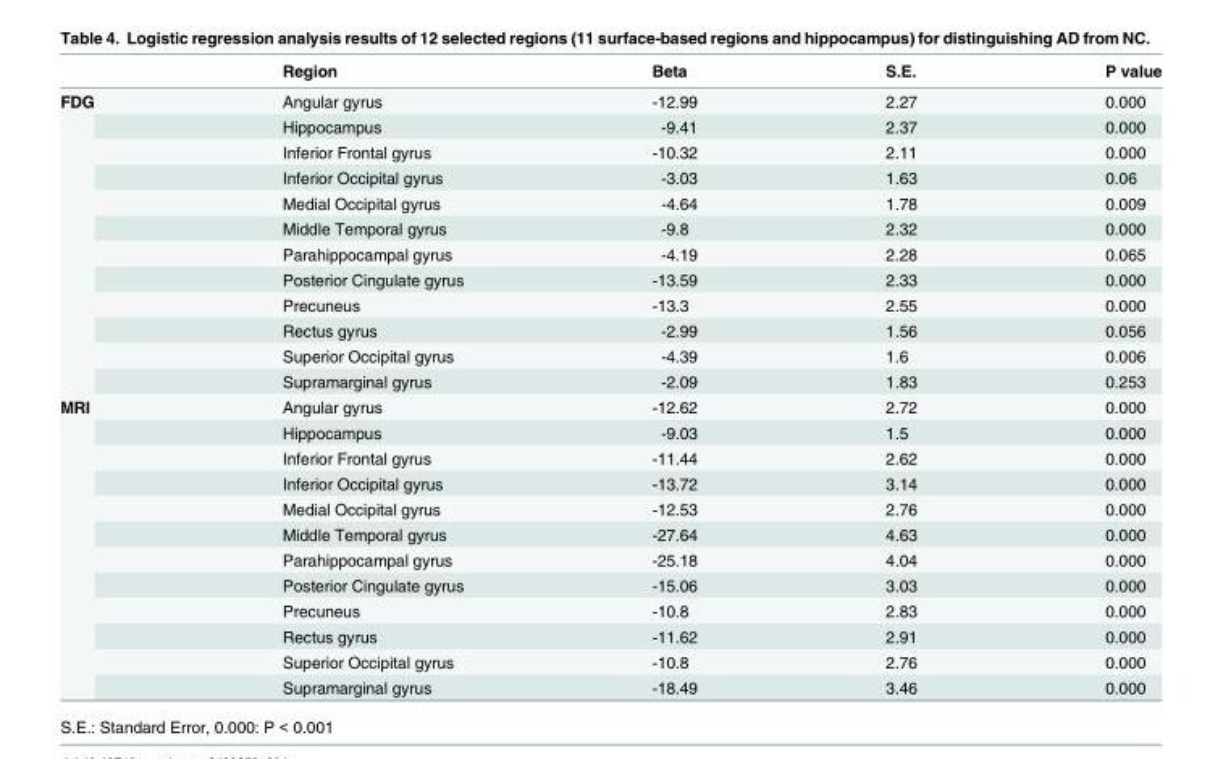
<table><thead><tr><td></td><td>Region</td><td>Beta</td><td>S.E.</td><td>P value</td></tr></thead><tbody><tr><td rowspan="12">FDG</td><td>Angular gyrus</td><td>-12.99</td><td>2.27</td><td>0.000</td></tr><tr><td>Hippocampus</td><td>-9.41</td><td>2.37</td><td>0.000</td></tr><tr><td>Inferior Frontal gyrus</td><td>-10.32</td><td>2.11</td><td>0.000</td></tr><tr><td>Inferior Occipital gyrus</td><td>-3.03</td><td>1.63</td><td>0.06</td></tr><tr><td>Medial Occipital gyrus</td><td>-4.64</td><td>1.78</td><td>0.009</td></tr><tr><td>Middle Temporal gyrus</td><td>-9.8</td><td>2.32</td><td>0.000</td></tr><tr><td>Parahippocampal gyrus</td><td>-4.19</td><td>2.28</td><td>0.065</td></tr><tr><td>Posterior Cingulate gyrus</td><td>-13.59</td><td>2.33</td><td>0.000</td></tr><tr><td>Precuneus</td><td>-13.3</td><td>2.55</td><td>0.000</td></tr><tr><td>Rectus gyrus</td><td>-2.99</td><td>1.56</td><td>0.056</td></tr><tr><td>Superior Occipital gyrus</td><td>-4.39</td><td>1.6</td><td>0.006</td></tr><tr><td>Supramarginal gyrus</td><td>-2.09</td><td>1.83</td><td>0.253</td></tr><tr><td rowspan="12">MRI</td><td>Angular gyrus</td><td>-12.62</td><td>2.72</td><td>0.000</td></tr><tr><td>Hippocampus</td><td>-9.03</td><td>1.5</td><td>0.000</td></tr><tr><td>Inferior Frontal gyrus</td><td>-11.44</td><td>2.62</td><td>0.000</td></tr><tr><td>Inferior Occipital gyrus</td><td>-13.72</td><td>3.14</td><td>0.000</td></tr><tr><td>Medial Occipital gyrus</td><td>-12.53</td><td>2.76</td><td>0.000</td></tr><tr><td>Middle Temporal gyrus</td><td>-27.64</td><td>4.63</td><td>0.000</td></tr><tr><td>Parahippocampal gyrus</td><td>-25.18</td><td>4.04</td><td>0.000</td></tr><tr><td>Posterior Cingulate gyrus</td><td>-15.06</td><td>3.03</td><td>0.000</td></tr><tr><td>Precuneus</td><td>-10.8</td><td>2.83</td><td>0.000</td></tr><tr><td>Rectus gyrus</td><td>-11.62</td><td>2.91</td><td>0.000</td></tr><tr><td>Superior Occipital gyrus</td><td>-10.8</td><td>2.76</td><td>0.000</td></tr><tr><td>Supramarginal gyrus</td><td>-18.49</td><td>3.46</td><td>0.000</td></tr></tbody></table>